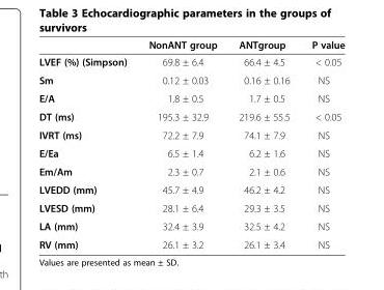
<table><thead><tr><td></td><td>NonANT group</td><td>ANTgroup</td><td>P value</td></tr></thead><tbody><tr><td>LVEF (%) (Simpson)</td><td>69.8 ± 6.4</td><td>66.4 ± 4.5</td><td>&lt; 0.05</td></tr><tr><td>Sm</td><td>0.12 ± 0.03</td><td>0.16 ± 0.16</td><td>NS</td></tr><tr><td>E/A</td><td>1.8 ± 0.5</td><td>1.7 ± 0.5</td><td>NS</td></tr><tr><td>DT (ms)</td><td>195.3 ± 32.9</td><td>219.6 ± 55.5</td><td>&lt; 0.05</td></tr><tr><td>IVRT (ms)</td><td>72.2 ± 7.9</td><td>74.1 ± 7.9</td><td>NS</td></tr><tr><td>E/Ea</td><td>6.5 ± 1.4</td><td>6.2 ± 1.6</td><td>NS</td></tr><tr><td>Em/Am</td><td>2.3 ± 0.7</td><td>2.1 ± 0.6</td><td>NS</td></tr><tr><td>LVEDD (mm)</td><td>45.7 ± 4.9</td><td>46.2 ± 4.2</td><td>NS</td></tr><tr><td>LVESD (mm)</td><td>28.1 ± 6.4</td><td>29.3 ± 3.5</td><td>NS</td></tr><tr><td>LA (mm)</td><td>32.4 ± 3.9</td><td>32.5 ± 4.2</td><td>NS</td></tr><tr><td>RV (mm)</td><td>26.1 ± 3.2</td><td>26.1 ± 3.4</td><td>NS</td></tr></tbody></table>